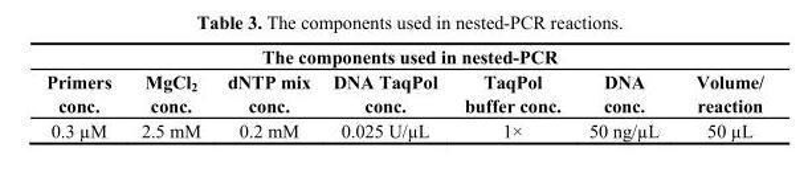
<table><thead><tr><td colspan="7">The components used in nested-PCR</td></tr><tr><td>Primers conc.</td><td>MgCl<sub>2</sub> conc.</td><td>dNTP mix conc.</td><td>DNA TaqPol conc.</td><td>TaqPol buffer conc.</td><td>DNA conc.</td><td>Volume/ reaction</td></tr></thead><tbody><tr><td>0.3 µM</td><td>2.5 mM</td><td>0.2 mM</td><td>0.025 U/µL</td><td>1×</td><td>50 ng/µL</td><td>50 µL</td></tr></tbody></table>